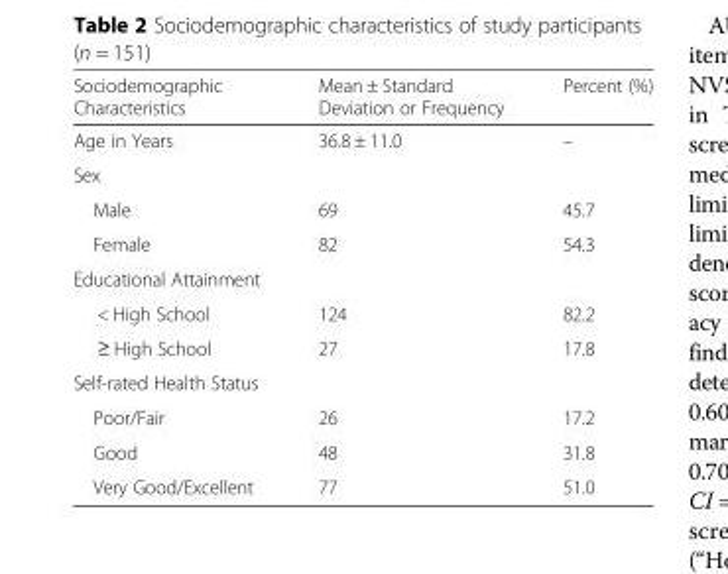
<table><thead><tr><td>Sociodemographic Characteristics</td><td>Mean ± Standard Deviation or Frequency</td><td>Percent (%)</td></tr></thead><tbody><tr><td>Age in Years</td><td>36.8 ± 11.0</td><td>–</td></tr><tr><td colspan="3">Sex</td></tr><tr><td>Male</td><td>69</td><td>45.7</td></tr><tr><td>Female</td><td>82</td><td>54.3</td></tr><tr><td colspan="3">Educational Attainment</td></tr><tr><td>&lt; High School</td><td>124</td><td>82.2</td></tr><tr><td>≥ High School</td><td>27</td><td>17.8</td></tr><tr><td colspan="3">Self-rated Health Status</td></tr><tr><td>Poor/Fair</td><td>26</td><td>17.2</td></tr><tr><td>Good</td><td>48</td><td>31.8</td></tr><tr><td>Very Good/Excellent</td><td>77</td><td>51.0</td></tr></tbody></table>